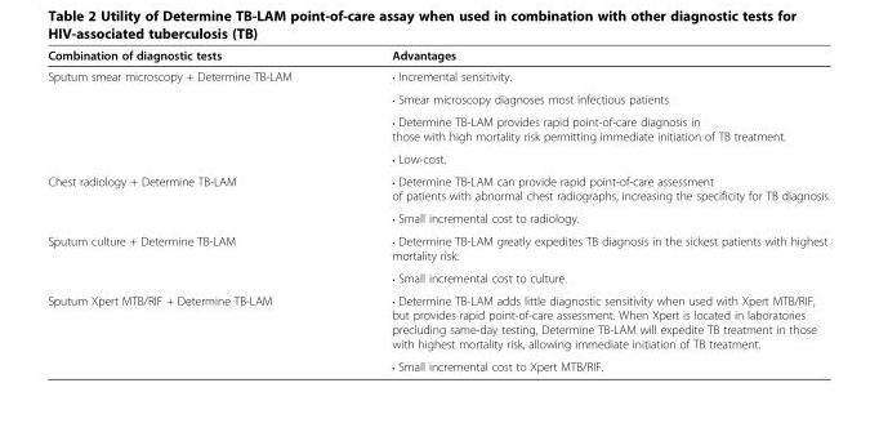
<table><thead><tr><td>Combination of diagnostic tests</td><td>Advantages</td></tr></thead><tbody><tr><td rowspan="4">Sputum smear microscopy + Determine TB-LAM</td><td>• Incremental sensitivity.</td></tr><tr><td>• Smear microscopy diagnoses most infectious patients</td></tr><tr><td>• Determine TB-LAM provides rapid point-of-care diagnosis in those with high mortality risk permitting immediate initiation of TB treatment.</td></tr><tr><td>• Low-cost.</td></tr><tr><td rowspan="2">Chest radiology + Determine TB-LAM</td><td>• Determine TB-LAM can provide rapid point-of-care assessment of patients with abnormal chest radiographs, increasing the specificity for TB diagnosis.</td></tr><tr><td>• Small incremental cost to radiology.</td></tr><tr><td rowspan="2">Sputum culture + Determine TB-LAM</td><td>• Determine TB-LAM greatly expedites TB diagnosis in the sickest patients with highest mortality risk.</td></tr><tr><td>• Small incremental cost to culture.</td></tr><tr><td rowspan="2">Sputum Xpert MTB/RIF + Determine TB-LAM</td><td>• Determine TB-LAM adds little diagnostic sensitivity when used with Xpert MTB/RIF, but provides rapid point-of-care assessment. When Xpert is located in laboratories precluding same-day testing, Determine TB-LAM will expedite TB treatment in those with highest mortality risk, allowing immediate initiation of TB treatment.</td></tr><tr><td>• Small incremental cost to Xpert MTB/RIF.</td></tr></tbody></table>